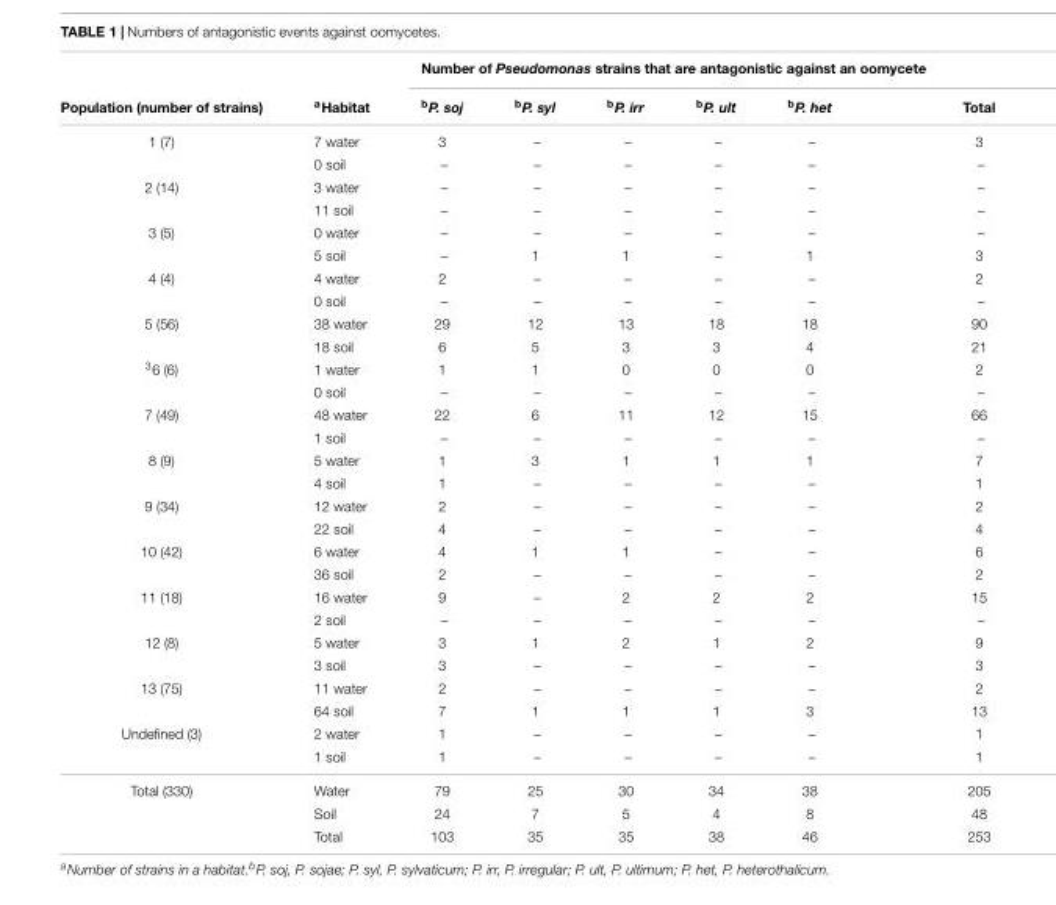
<table><thead><tr><td rowspan="2">Population (number of strains)</td><td rowspan="2"><sup>a</sup>Habitat</td><td colspan="6">Number of Pseudomonas strains that are antagonistic against an oomycete</td></tr><tr><td><sup>b</sup>P. soj</td><td><sup>b</sup>P. syl</td><td><sup>b</sup>P. irr</td><td><sup>b</sup>P. ult</td><td><sup>b</sup>P. het</td><td>Total</td></tr></thead><tbody><tr><td rowspan="2">1 (7)</td><td>7 water</td><td>3</td><td>–</td><td>–</td><td>–</td><td>–</td><td>3</td></tr><tr><td>0 soil</td><td>–</td><td>–</td><td>–</td><td>–</td><td>–</td><td>–</td></tr><tr><td rowspan="2">2 (14)</td><td>3 water</td><td>–</td><td>–</td><td>–</td><td>–</td><td>–</td><td>–</td></tr><tr><td>11 soil</td><td>–</td><td>–</td><td>–</td><td>–</td><td>–</td><td>–</td></tr><tr><td rowspan="2">3 (5)</td><td>0 water</td><td>–</td><td>–</td><td>–</td><td>–</td><td>–</td><td>–</td></tr><tr><td>5 soil</td><td>–</td><td>1</td><td>1</td><td>–</td><td>1</td><td>3</td></tr><tr><td rowspan="2">4 (4)</td><td>4 water</td><td>2</td><td>–</td><td>–</td><td>–</td><td>–</td><td>2</td></tr><tr><td>0 soil</td><td>–</td><td>–</td><td>–</td><td>–</td><td>–</td><td>–</td></tr><tr><td rowspan="2">5 (56)</td><td>38 water</td><td>29</td><td>12</td><td>13</td><td>18</td><td>18</td><td>90</td></tr><tr><td>18 soil</td><td>6</td><td>5</td><td>3</td><td>3</td><td>4</td><td>21</td></tr><tr><td rowspan="2"><sup>3</sup>6 (6)</td><td>1 water</td><td>1</td><td>1</td><td>0</td><td>0</td><td>0</td><td>2</td></tr><tr><td>0 soil</td><td>–</td><td>–</td><td>–</td><td>–</td><td>–</td><td>–</td></tr><tr><td rowspan="2">7 (49)</td><td>48 water</td><td>22</td><td>6</td><td>11</td><td>12</td><td>15</td><td>66</td></tr><tr><td>1 soil</td><td>–</td><td>–</td><td>–</td><td>–</td><td>–</td><td>–</td></tr><tr><td rowspan="2">8 (9)</td><td>5 water</td><td>1</td><td>3</td><td>1</td><td>1</td><td>1</td><td>7</td></tr><tr><td>4 soil</td><td>1</td><td>–</td><td>–</td><td>–</td><td>–</td><td>1</td></tr><tr><td rowspan="2">9 (34)</td><td>12 water</td><td>2</td><td>–</td><td>–</td><td>–</td><td>–</td><td>2</td></tr><tr><td>22 soil</td><td>4</td><td>–</td><td>–</td><td>–</td><td>–</td><td>4</td></tr><tr><td rowspan="2">10 (42)</td><td>6 water</td><td>4</td><td>1</td><td>1</td><td>–</td><td>–</td><td>6</td></tr><tr><td>36 soil</td><td>2</td><td>–</td><td>–</td><td>–</td><td>–</td><td>2</td></tr><tr><td rowspan="2">11 (18)</td><td>16 water</td><td>9</td><td>–</td><td>2</td><td>2</td><td>2</td><td>15</td></tr><tr><td>2 soil</td><td>–</td><td>–</td><td>–</td><td>–</td><td>–</td><td>–</td></tr><tr><td rowspan="2">12 (8)</td><td>5 water</td><td>3</td><td>1</td><td>2</td><td>1</td><td>2</td><td>9</td></tr><tr><td>3 soil</td><td>3</td><td>–</td><td>–</td><td>–</td><td>–</td><td>3</td></tr><tr><td rowspan="2">13 (75)</td><td>11 water</td><td>2</td><td>–</td><td>–</td><td>–</td><td>–</td><td>2</td></tr><tr><td>64 soil</td><td>7</td><td>1</td><td>1</td><td>1</td><td>3</td><td>13</td></tr><tr><td rowspan="2">Undefined (3)</td><td>2 water</td><td>1</td><td>–</td><td>–</td><td>–</td><td>–</td><td>1</td></tr><tr><td>1 soil</td><td>1</td><td>–</td><td>–</td><td>–</td><td>–</td><td>1</td></tr><tr><td rowspan="3">Total (330)</td><td>Water</td><td>79</td><td>25</td><td>30</td><td>34</td><td>38</td><td>205</td></tr><tr><td>Soil</td><td>24</td><td>7</td><td>5</td><td>4</td><td>8</td><td>48</td></tr><tr><td>Total</td><td>103</td><td>35</td><td>35</td><td>38</td><td>46</td><td>253</td></tr></tbody></table>